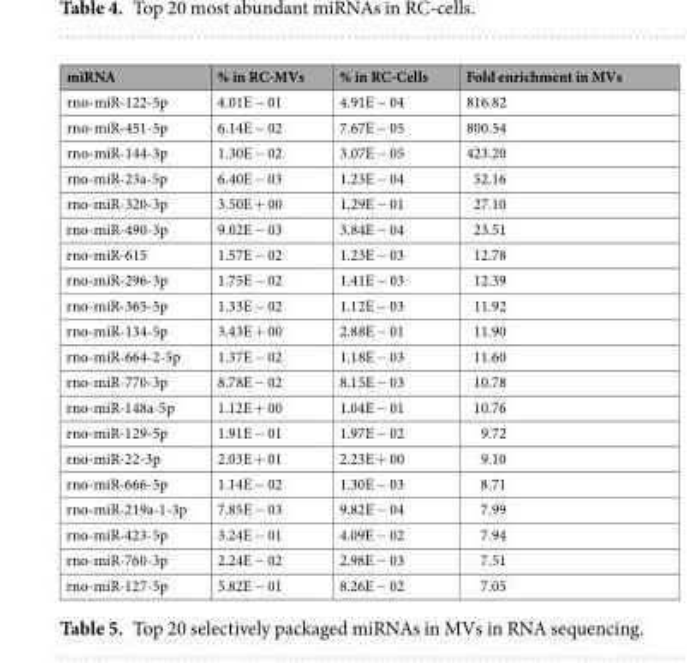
<table><thead><tr><td>miRNA</td><td>% in RC-MVs</td><td>% in RC-Cells</td><td>Fold enrichment in MVs</td></tr></thead><tbody><tr><td>rno-miR-122-5p</td><td>4.01E − 01</td><td>4.91E − 04</td><td>816.82</td></tr><tr><td>rno-miR-451-5p</td><td>6.14E − 02</td><td>7.67E − 05</td><td>800.54</td></tr><tr><td>rno-miR-144-3p</td><td>1.30E − 02</td><td>3.07E − 05</td><td>423.20</td></tr><tr><td>rno-miR-23a-5p</td><td>6.40E − 03</td><td>1.23E − 04</td><td>52.16</td></tr><tr><td>rno-miR-320-3p</td><td>3.50E + 00</td><td>1.29E − 01</td><td>27.10</td></tr><tr><td>rno-miR-490-3p</td><td>9.02E − 03</td><td>3.84E − 04</td><td>23.51</td></tr><tr><td>rno-miR-615</td><td>1.57E − 02</td><td>1.23E − 03</td><td>12.78</td></tr><tr><td>rno-miR-296-3p</td><td>1.75E − 02</td><td>1.41E − 03</td><td>12.39</td></tr><tr><td>rno-miR-365-5p</td><td>1.33E − 02</td><td>1.12E − 03</td><td>11.92</td></tr><tr><td>rno-miR-134-5p</td><td>3.43E + 00</td><td>2.88E − 01</td><td>11.90</td></tr><tr><td>rno-miR-664-2-5p</td><td>1.37E − 02</td><td>1.18E − 03</td><td>11.60</td></tr><tr><td>rno-miR-770-3p</td><td>8.78E − 02</td><td>8.15E − 03</td><td>10.78</td></tr><tr><td>rno-miR-148a-5p</td><td>1.12E + 00</td><td>1.04E − 01</td><td>10.76</td></tr><tr><td>rno-miR-129-5p</td><td>1.91E − 01</td><td>1.97E − 02</td><td>9.72</td></tr><tr><td>rno-miR-22-3p</td><td>2.03E + 01</td><td>2.23E + 00</td><td>9.10</td></tr><tr><td>rno-miR-666-5p</td><td>1.14E − 02</td><td>1.30E − 03</td><td>8.71</td></tr><tr><td>rno-miR-219a-1-3p</td><td>7.85E − 03</td><td>9.82E − 04</td><td>7.99</td></tr><tr><td>rno-miR-423-5p</td><td>3.24E − 01</td><td>4.09E − 02</td><td>7.94</td></tr><tr><td>rno-miR-760-3p</td><td>2.24E − 02</td><td>2.98E − 03</td><td>7.51</td></tr><tr><td>rno-miR-127-5p</td><td>5.82E − 01</td><td>8.26E − 02</td><td>7.05</td></tr></tbody></table>